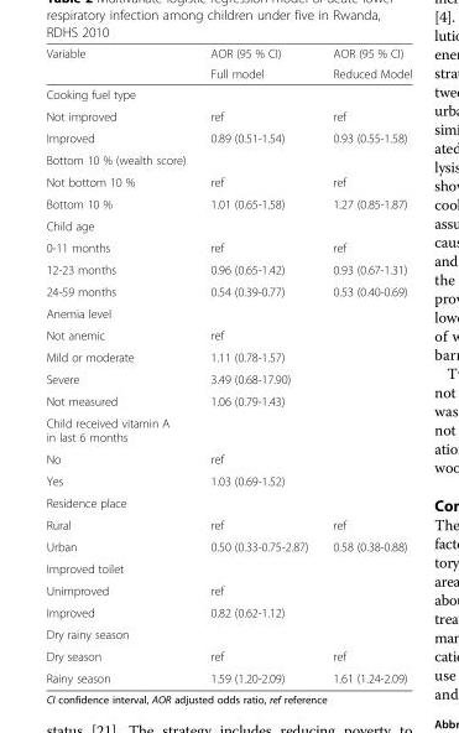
<table><thead><tr><td rowspan="2">Variable</td><td rowspan="2">AOR (95 % CI) Full model</td><td rowspan="2">AOR (95 % CI) Reduced Model</td></tr><tr></tr></thead><tbody><tr><td colspan="3">Cooking fuel type</td></tr><tr><td>Not improved</td><td>ref</td><td>ref</td></tr><tr><td>Improved</td><td>0.89 (0.51-1.54)</td><td>0.93 (0.55-1.58)</td></tr><tr><td colspan="3">Bottom 10 % (wealth score)</td></tr><tr><td>Not bottom 10 %</td><td>ref</td><td>ref</td></tr><tr><td>Bottom 10 %</td><td>1.01 (0.65-1.58)</td><td>1.27 (0.85-1.87)</td></tr><tr><td colspan="3">Child age</td></tr><tr><td>0-11 months</td><td>ref</td><td>ref</td></tr><tr><td>12-23 months</td><td>0.96 (0.65-1.42)</td><td>0.93 (0.67-1.31)</td></tr><tr><td>24-59 months</td><td>0.54 (0.39-0.77)</td><td>0.53 (0.40-0.69)</td></tr><tr><td colspan="3">Anemia level</td></tr><tr><td>Not anemic</td><td>ref</td><td></td></tr><tr><td>Mild or moderate</td><td>1.11 (0.78-1.57)</td><td></td></tr><tr><td>Severe</td><td>3.49 (0.68-17.90)</td><td></td></tr><tr><td>Not measured</td><td>1.06 (0.79-1.43)</td><td></td></tr><tr><td colspan="3">Child received vitamin A in last 6 months</td></tr><tr><td>No</td><td>ref</td><td></td></tr><tr><td>Yes</td><td>1.03 (0.69-1.52)</td><td></td></tr><tr><td colspan="3">Residence place</td></tr><tr><td>Rural</td><td>ref</td><td>ref</td></tr><tr><td>Urban</td><td>0.50 (0.33-0.75-2.87)</td><td>0.58 (0.38-0.88)</td></tr><tr><td colspan="3">Improved toilet</td></tr><tr><td>Unimproved</td><td>ref</td><td></td></tr><tr><td>Improved</td><td>0.82 (0.62-1.12)</td><td></td></tr><tr><td colspan="3">Dry rainy season</td></tr><tr><td>Dry season</td><td>ref</td><td>ref</td></tr><tr><td>Rainy season</td><td>1.59 (1.20-2.09)</td><td>1.61 (1.24-2.09)</td></tr></tbody></table>